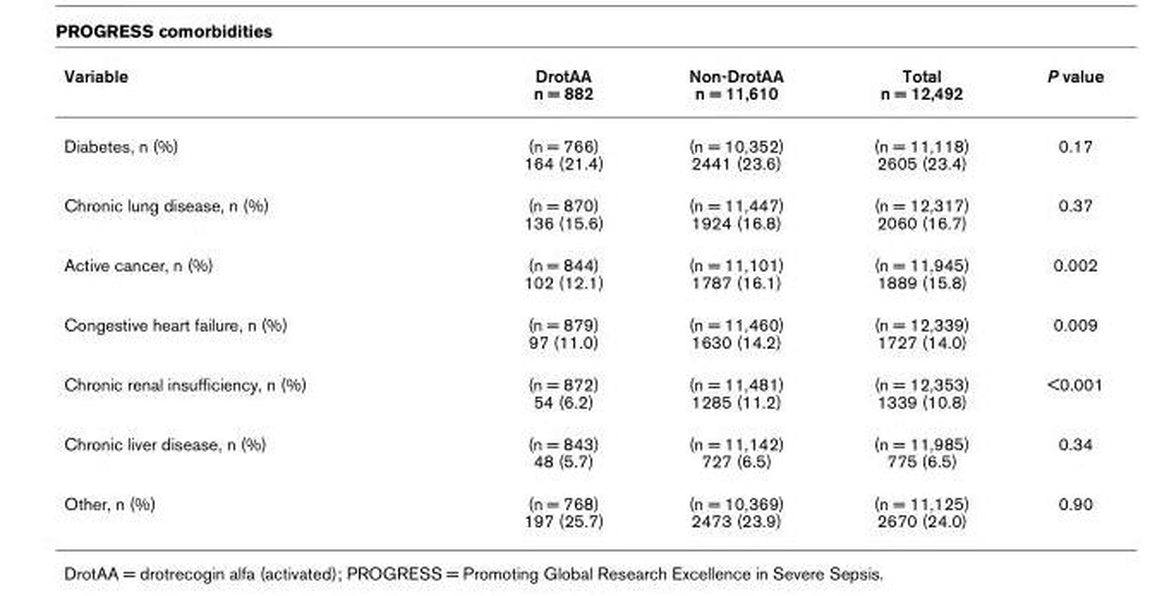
<table><thead><tr><td>Variable</td><td>DrotAA n = 882</td><td>Non-DrotAA n = 11,610</td><td>Total n = 12,492</td><td>P value</td></tr></thead><tbody><tr><td>Diabetes, n (%)</td><td>(n = 766) 164 (21.4)</td><td>(n = 10,352) 2441 (23.6)</td><td>(n = 11,118) 2605 (23.4)</td><td>0.17</td></tr><tr><td>Chronic lung disease, n (%)</td><td>(n = 870) 136 (15.6)</td><td>(n = 11,447) 1924 (16.8)</td><td>(n = 12,317) 2060 (16.7)</td><td>0.37</td></tr><tr><td>Active cancer, n (%)</td><td>(n = 844) 102 (12.1)</td><td>(n = 11,101) 1787 (16.1)</td><td>(n = 11,945) 1889 (15.8)</td><td>0.002</td></tr><tr><td>Congestive heart failure, n (%)</td><td>(n = 879) 97 (11.0)</td><td>(n = 11,460) 1630 (14.2)</td><td>(n = 12,339) 1727 (14.0)</td><td>0.009</td></tr><tr><td>Chronic renal insufficiency, n (%)</td><td>(n = 872) 54 (6.2)</td><td>(n = 11,481) 1285 (11.2)</td><td>(n = 12,353) 1339 (10.8)</td><td>&lt;0.001</td></tr><tr><td>Chronic liver disease, n (%)</td><td>(n = 843) 48 (5.7)</td><td>(n = 11,142) 727 (6.5)</td><td>(n = 11,985) 775 (6.5)</td><td>0.34</td></tr><tr><td>Other, n (%)</td><td>(n = 768) 197 (25.7)</td><td>(n = 10,369) 2473 (23.9)</td><td>(n = 11,125) 2670 (24.0)</td><td>0.90</td></tr></tbody></table>